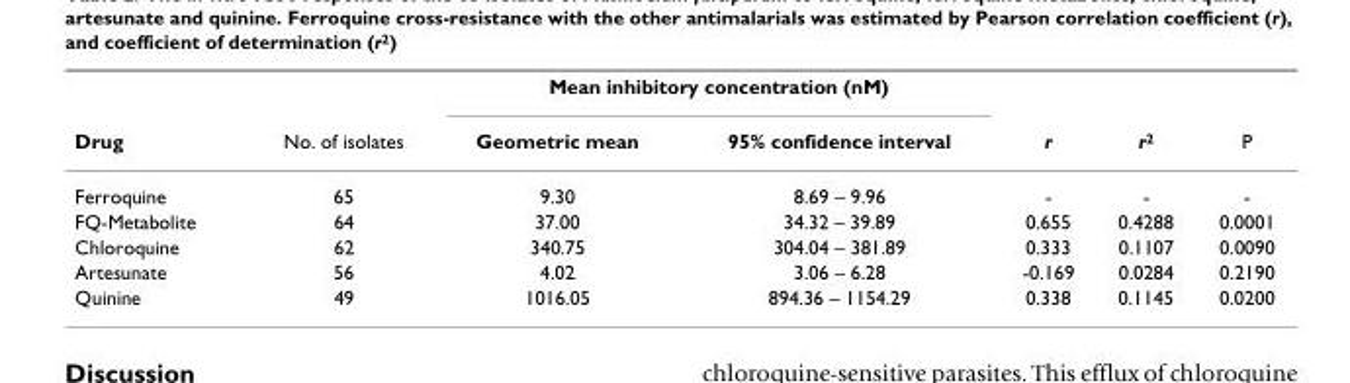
<table><thead><tr><td rowspan="2">Drug</td><td rowspan="2">No. of isolates</td><td colspan="2">Mean inhibitory concentration (nM)</td><td rowspan="2">r</td><td rowspan="2">r<sup>2</sup></td><td rowspan="2">P</td></tr><tr><td>Geometric mean</td><td>95% confidence interval</td></tr></thead><tbody><tr><td>Ferroquine</td><td>65</td><td>9.30</td><td>8.69 – 9.96</td><td>-</td><td>-</td><td>-</td></tr><tr><td>FQ-Metabolite</td><td>64</td><td>37.00</td><td>34.32 – 39.89</td><td>0.655</td><td>0.4288</td><td>0.0001</td></tr><tr><td>Chloroquine</td><td>62</td><td>340.75</td><td>304.04 – 381.89</td><td>0.333</td><td>0.1107</td><td>0.0090</td></tr><tr><td>Artesunate</td><td>56</td><td>4.02</td><td>3.06 – 6.28</td><td>-0.169</td><td>0.0284</td><td>0.2190</td></tr><tr><td>Quinine</td><td>49</td><td>1016.05</td><td>894.36 – 1154.29</td><td>0.338</td><td>0.1145</td><td>0.0200</td></tr></tbody></table>